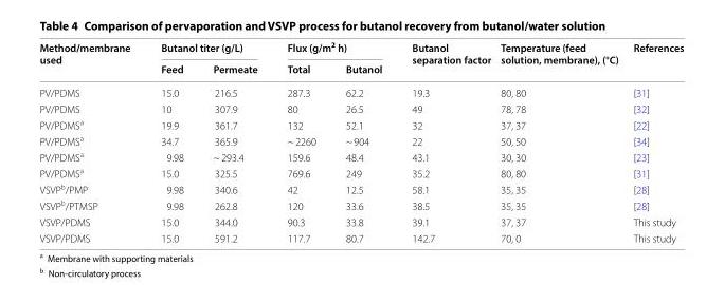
<table><thead><tr><td rowspan="2">Method/membrane used</td><td colspan="2">Butanol titer (g/L)</td><td colspan="2">Flux (g/m<sup>2</sup> h)</td><td rowspan="2">Butanol separation factor</td><td rowspan="2">Temperature (feed solution, membrane), (°C)</td><td rowspan="2">References</td></tr><tr><td>Feed</td><td>Permeate</td><td>Total</td><td>Butanol</td></tr></thead><tbody><tr><td>PV/PDMS</td><td>15.0</td><td>216.5</td><td>287.3</td><td>62.2</td><td>19.3</td><td>80, 80</td><td>[31]</td></tr><tr><td>PV/PDMS</td><td>10</td><td>307.9</td><td>80</td><td>26.5</td><td>49</td><td>78, 78</td><td>[32]</td></tr><tr><td>PV/PDMS<sup>a</sup></td><td>19.9</td><td>361.7</td><td>132</td><td>52.1</td><td>32</td><td>37, 37</td><td>[22]</td></tr><tr><td>PV/PDMS<sup>a</sup></td><td>34.7</td><td>365.9</td><td>~ 2260</td><td>~ 904</td><td>22</td><td>50, 50</td><td>[34]</td></tr><tr><td>PV/PDMS<sup>a</sup></td><td>9.98</td><td>~ 293.4</td><td>159.6</td><td>48.4</td><td>43.1</td><td>30, 30</td><td>[23]</td></tr><tr><td>PV/PDMS<sup>a</sup></td><td>15.0</td><td>325.5</td><td>769.6</td><td>249</td><td>35.2</td><td>80, 80</td><td>[31]</td></tr><tr><td>VSVP<sup>b</sup>/PMP</td><td>9.98</td><td>340.6</td><td>42</td><td>12.5</td><td>58.1</td><td>35, 35</td><td>[28]</td></tr><tr><td>VSVP<sup>b</sup>/PTMSP</td><td>9.98</td><td>262.8</td><td>120</td><td>33.6</td><td>38.5</td><td>35, 35</td><td>[28]</td></tr><tr><td>VSVP/PDMS</td><td>15.0</td><td>344.0</td><td>90.3</td><td>33.8</td><td>39.1</td><td>37, 37</td><td>This study</td></tr><tr><td>VSVP/PDMS</td><td>15.0</td><td>591.2</td><td>117.7</td><td>80.7</td><td>142.7</td><td>70, 0</td><td>This study</td></tr></tbody></table>